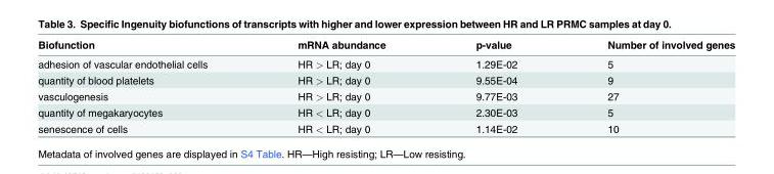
<table><thead><tr><td>Biofunction</td><td>mRNA abundance</td><td>p-value</td><td>Number of involved genes</td></tr></thead><tbody><tr><td>adhesion of vascular endothelial cells</td><td>HR &gt; LR; day 0</td><td>1.29E-02</td><td>5</td></tr><tr><td>quantity of blood platelets</td><td>HR &gt; LR; day 0</td><td>9.55E-04</td><td>9</td></tr><tr><td>vasculogenesis</td><td>HR &gt; LR; day 0</td><td>9.77E-03</td><td>27</td></tr><tr><td>quantity of megakaryocytes</td><td>HR &lt; LR; day 0</td><td>2.30E-03</td><td>5</td></tr><tr><td>senescence of cells</td><td>HR &lt; LR; day 0</td><td>1.14E-02</td><td>10</td></tr></tbody></table>